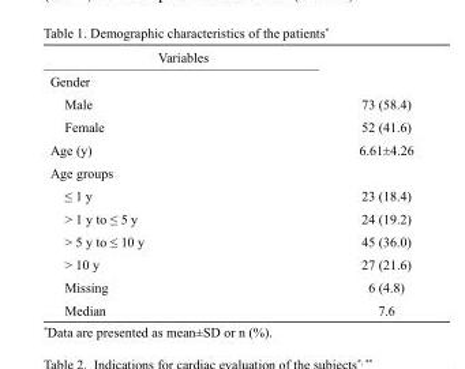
<table><thead><tr><td>Variables</td><td></td></tr></thead><tbody><tr><td colspan="2">Gender</td></tr><tr><td>Male</td><td>73 (58.4)</td></tr><tr><td>Female</td><td>52 (41.6)</td></tr><tr><td>Age (y)</td><td>6.61±4.26</td></tr><tr><td colspan="2">Age groups</td></tr><tr><td>≤ 1 y</td><td>23 (18.4)</td></tr><tr><td>&gt; 1 y to ≤ 5 y</td><td>24 (19.2)</td></tr><tr><td>&gt; 5 y to ≤ 10 y</td><td>45 (36.0)</td></tr><tr><td>&gt; 10 y</td><td>27 (21.6)</td></tr><tr><td>Missing</td><td>6 (4.8)</td></tr><tr><td>Median</td><td>7.6</td></tr></tbody></table>